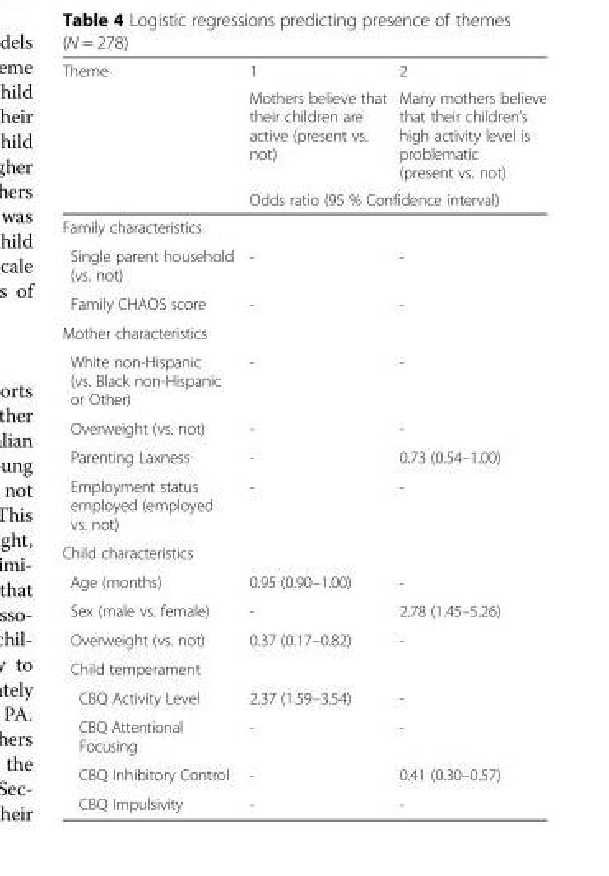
<table><thead><tr><td rowspan="3">Theme</td><td rowspan="2">1 Mothers believe that their children are active (present vs. not)</td><td rowspan="2">2 Many mothers believe that their children’s high activity level is problematic (present vs. not)</td></tr><tr></tr><tr><td colspan="2">Odds ratio (95 % Confidence interval)</td></tr></thead><tbody><tr><td colspan="3">Family characteristics</td></tr><tr><td>Single parent household (vs. not)</td><td>-</td><td>-</td></tr><tr><td>Family CHAOS score</td><td>-</td><td>-</td></tr><tr><td colspan="3">Mother characteristics</td></tr><tr><td>White non-Hispanic (vs. Black non-Hispanic or Other)</td><td>-</td><td>-</td></tr><tr><td>Overweight (vs. not)</td><td>-</td><td>-</td></tr><tr><td>Parenting Laxness</td><td>-</td><td>0.73 (0.54–1.00)</td></tr><tr><td>Employment status employed (employed vs. not)</td><td>-</td><td>-</td></tr><tr><td colspan="3">Child characteristics</td></tr><tr><td>Age (months)</td><td>0.95 (0.90–1.00)</td><td>-</td></tr><tr><td>Sex (male vs. female)</td><td>-</td><td>2.78 (1.45–5.26)</td></tr><tr><td>Overweight (vs. not)</td><td>0.37 (0.17–0.82)</td><td>-</td></tr><tr><td colspan="3">Child temperament</td></tr><tr><td>CBQ Activity Level</td><td>2.37 (1.59–3.54)</td><td>-</td></tr><tr><td>CBQ Attentional Focusing</td><td>-</td><td>-</td></tr><tr><td>CBQ Inhibitory Control</td><td>-</td><td>0.41 (0.30–0.57)</td></tr><tr><td>CBQ Impulsivity</td><td>-</td><td>-</td></tr></tbody></table>